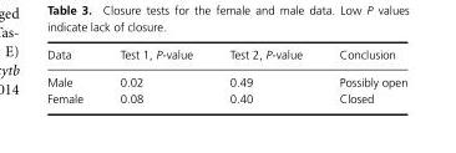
<table><thead><tr><td>Data</td><td>Test 1, P-value</td><td>Test 2, P-value</td><td>Conclusion</td></tr></thead><tbody><tr><td>Male</td><td>0.02</td><td>0.49</td><td>Possibly open</td></tr><tr><td>Female</td><td>0.08</td><td>0.40</td><td>Closed</td></tr></tbody></table>